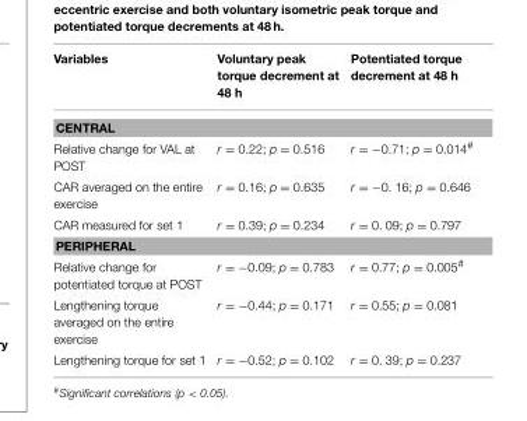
<table><thead><tr><td>Variables</td><td>Voluntary peak torque decrement at 48 h</td><td>Potentiated torque decrement at 48 h</td></tr></thead><tbody><tr><td colspan="3">CENTRAL</td></tr><tr><td>Relative change for VAL at POST</td><td>r = 0.22; p = 0.516</td><td>r = −0.71; p = 0.014<sup>#</sup></td></tr><tr><td>CAR averaged on the entire exercise</td><td>r = 0.16; p = 0.635</td><td>r = −0. 16; p = 0.646</td></tr><tr><td>CAR measured for set 1</td><td>r = 0.39; p = 0.234</td><td>r = 0. 09; p = 0.797</td></tr><tr><td colspan="3">PERIPHERAL</td></tr><tr><td>Relative change for potentiated torque at POST</td><td>r = −0.09; p = 0.783</td><td>r = 0.77; p = 0.005<sup>#</sup></td></tr><tr><td>Lengthening torque averaged on the entire exercise</td><td>r = −0.44; p = 0.171</td><td>r = 0.55; p = 0.081</td></tr><tr><td>Lengthening torque for set 1</td><td>r = −0.52; p = 0.102</td><td>r = 0. 39; p = 0.237</td></tr></tbody></table>